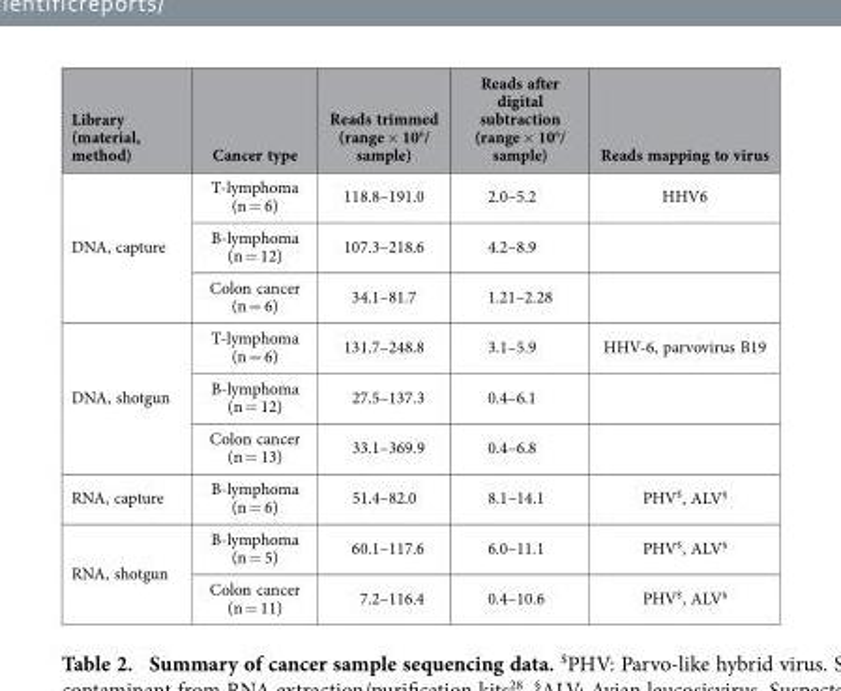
<table><thead><tr><td>Library (material, method)</td><td>Cancer type</td><td>Reads trimmed (range × 10<sup>6</sup>/ sample)</td><td>Reads after digital subtraction (range × 10<sup>6</sup>/ sample)</td><td>Reads mapping to virus</td></tr></thead><tbody><tr><td rowspan="3">DNA, capture</td><td>T-lymphoma (n = 6)</td><td>118.8–191.0</td><td>2.0–5.2</td><td>HHV6</td></tr><tr><td>B-lymphoma (n = 12)</td><td>107.3–218.6</td><td>4.2–8.9</td><td></td></tr><tr><td>Colon cancer (n = 6)</td><td>34.1–81.7</td><td>1.21–2.28</td><td></td></tr><tr><td rowspan="3">DNA, shotgun</td><td>T-lymphoma (n = 6)</td><td>131.7–248.8</td><td>3.1–5.9</td><td>HHV-6, parvovirus B19</td></tr><tr><td>B-lymphoma (n = 12)</td><td>27.5–137.3</td><td>0.4–6.1</td><td></td></tr><tr><td>Colon cancer (n = 13)</td><td>33.1–369.9</td><td>0.4–6.8</td><td></td></tr><tr><td>RNA, capture</td><td>B-lymphoma (n = 6)</td><td>51.4–82.0</td><td>8.1–14.1</td><td>PHV$, ALV§</td></tr><tr><td rowspan="2">RNA, shotgun</td><td>B-lymphoma (n = 5)</td><td>60.1–117.6</td><td>6.0–11.1</td><td>PHV$, ALV§</td></tr><tr><td>Colon cancer (n = 11)</td><td>7.2–116.4</td><td>0.4–10.6</td><td>PHV$, ALV§</td></tr></tbody></table>